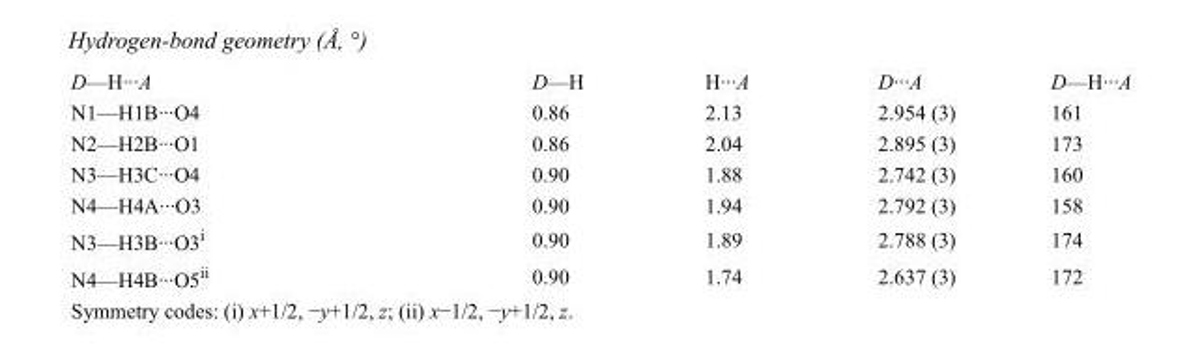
<table><tbody><tr><td>D—H···A</td><td>D—H</td><td>H···A</td><td>D···A</td><td>D—H···A</td></tr><tr><td>N1—H1B···O4</td><td>0.86</td><td>2.13</td><td>2.954 (3)</td><td>161</td></tr><tr><td>N2—H2B···O1</td><td>0.86</td><td>2.04</td><td>2.895 (3)</td><td>173</td></tr><tr><td>N3—H3C···O4</td><td>0.90</td><td>1.88</td><td>2.742 (3)</td><td>160</td></tr><tr><td>N4—H4A···O3</td><td>0.90</td><td>1.94</td><td>2.792 (3)</td><td>158</td></tr><tr><td>N3—H3B···O3<sup>i</sup></td><td>0.90</td><td>1.89</td><td>2.788 (3)</td><td>174</td></tr><tr><td>N4—H4B···O5<sup>ii</sup></td><td>0.90</td><td>1.74</td><td>2.637 (3)</td><td>172</td></tr></tbody></table>